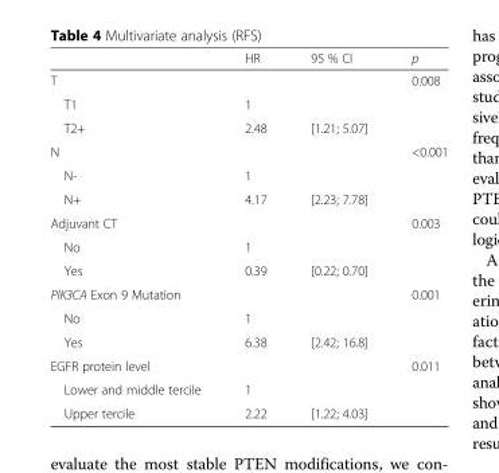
<table><thead><tr><td></td><td>HR</td><td>95 % CI</td><td>p</td></tr></thead><tbody><tr><td>T</td><td></td><td></td><td>0.008</td></tr><tr><td>T1</td><td>1</td><td></td><td></td></tr><tr><td>T2+</td><td>2.48</td><td>[1.21; 5.07]</td><td></td></tr><tr><td>N</td><td></td><td></td><td>&lt;0.001</td></tr><tr><td>N-</td><td>1</td><td></td><td></td></tr><tr><td>N+</td><td>4.17</td><td>[2.23; 7.78]</td><td></td></tr><tr><td>Adjuvant CT</td><td></td><td></td><td>0.003</td></tr><tr><td>No</td><td>1</td><td></td><td></td></tr><tr><td>Yes</td><td>0.39</td><td>[0.22; 0.70]</td><td></td></tr><tr><td>PIK3CA Exon 9 Mutation</td><td></td><td></td><td>0.001</td></tr><tr><td>No</td><td>1</td><td></td><td></td></tr><tr><td>Yes</td><td>6.38</td><td>[2.42; 16.8]</td><td></td></tr><tr><td>EGFR protein level</td><td></td><td></td><td>0.011</td></tr><tr><td>Lower and middle tercile</td><td>1</td><td></td><td></td></tr><tr><td>Upper tercile</td><td>2.22</td><td>[1.22; 4.03]</td><td></td></tr></tbody></table>